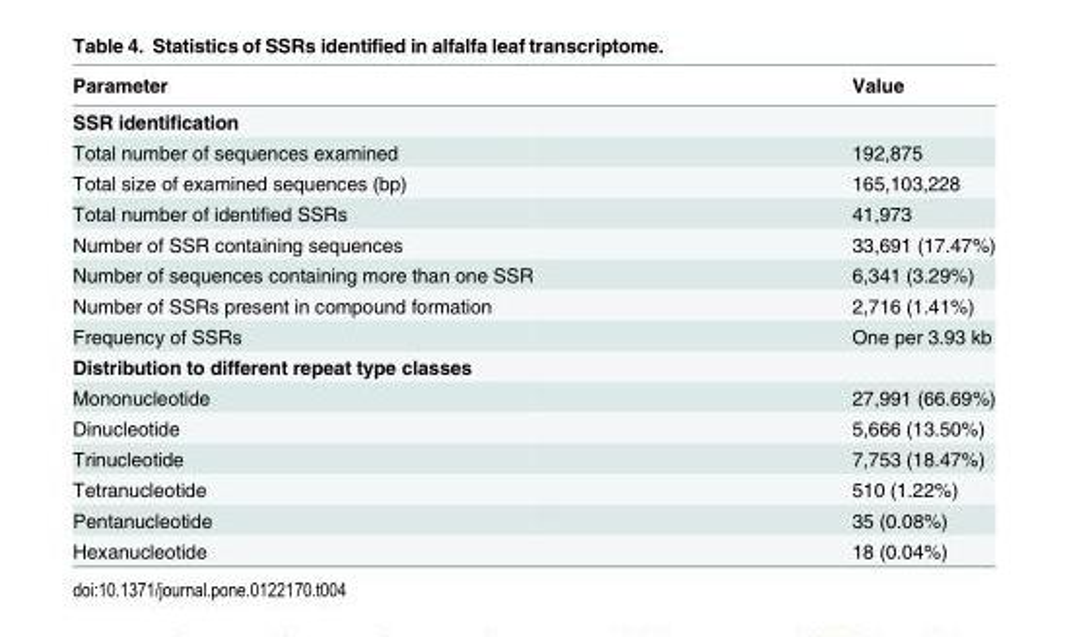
<table><thead><tr><td>Parameter</td><td>Value</td></tr></thead><tbody><tr><td colspan="2">SSR identification</td></tr><tr><td>Total number of sequences examined</td><td>192,875</td></tr><tr><td>Total size of examined sequences (bp)</td><td>165,103,228</td></tr><tr><td>Total number of identified SSRs</td><td>41,973</td></tr><tr><td>Number of SSR containing sequences</td><td>33,691 (17.47%)</td></tr><tr><td>Number of sequences containing more than one SSR</td><td>6,341 (3.29%)</td></tr><tr><td>Number of SSRs present in compound formation</td><td>2,716 (1.41%)</td></tr><tr><td>Frequency of SSRs</td><td>One per 3.93 kb</td></tr><tr><td colspan="2">Distribution to different repeat type classes</td></tr><tr><td>Mononucleotide</td><td>27,991 (66.69%)</td></tr><tr><td>Dinucleotide</td><td>5,666 (13.50%)</td></tr><tr><td>Trinucleotide</td><td>7,753 (18.47%)</td></tr><tr><td>Tetranucleotide</td><td>510 (1.22%)</td></tr><tr><td>Pentanucleotide</td><td>35 (0.08%)</td></tr><tr><td>Hexanucleotide</td><td>18 (0.04%)</td></tr></tbody></table>